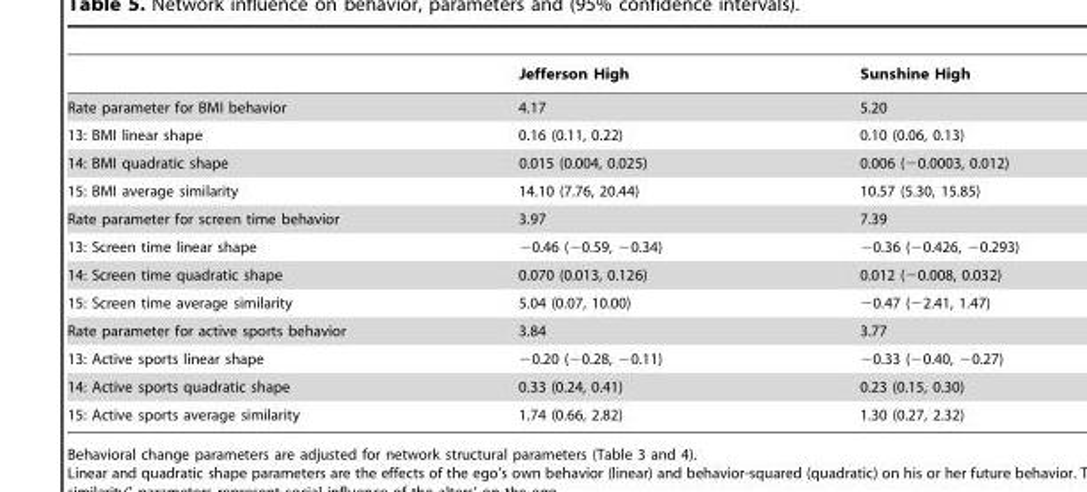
<table><thead><tr><td></td><td>Jefferson High</td><td>Sunshine High</td></tr></thead><tbody><tr><td>Rate parameter for BMI behavior</td><td>4.17</td><td>5.20</td></tr><tr><td>13: BMI linear shape</td><td>0.16 (0.11, 0.22)</td><td>0.10 (0.06, 0.13)</td></tr><tr><td>14: BMI quadratic shape</td><td>0.015 (0.004, 0.025)</td><td>0.006 (−0.0003, 0.012)</td></tr><tr><td>15: BMI average similarity</td><td>14.10 (7.76, 20.44)</td><td>10.57 (5.30, 15.85)</td></tr><tr><td>Rate parameter for screen time behavior</td><td>3.97</td><td>7.39</td></tr><tr><td>13: Screen time linear shape</td><td>−0.46 (−0.59, −0.34)</td><td>−0.36 (−0.426, −0.293)</td></tr><tr><td>14: Screen time quadratic shape</td><td>0.070 (0.013, 0.126)</td><td>0.012 (−0.008, 0.032)</td></tr><tr><td>15: Screen time average similarity</td><td>5.04 (0.07, 10.00)</td><td>−0.47 (−2.41, 1.47)</td></tr><tr><td>Rate parameter for active sports behavior</td><td>3.84</td><td>3.77</td></tr><tr><td>13: Active sports linear shape</td><td>−0.20 (−0.28, −0.11)</td><td>−0.33 (−0.40, −0.27)</td></tr><tr><td>14: Active sports quadratic shape</td><td>0.33 (0.24, 0.41)</td><td>0.23 (0.15, 0.30)</td></tr><tr><td>15: Active sports average similarity</td><td>1.74 (0.66, 2.82)</td><td>1.30 (0.27, 2.32)</td></tr></tbody></table>